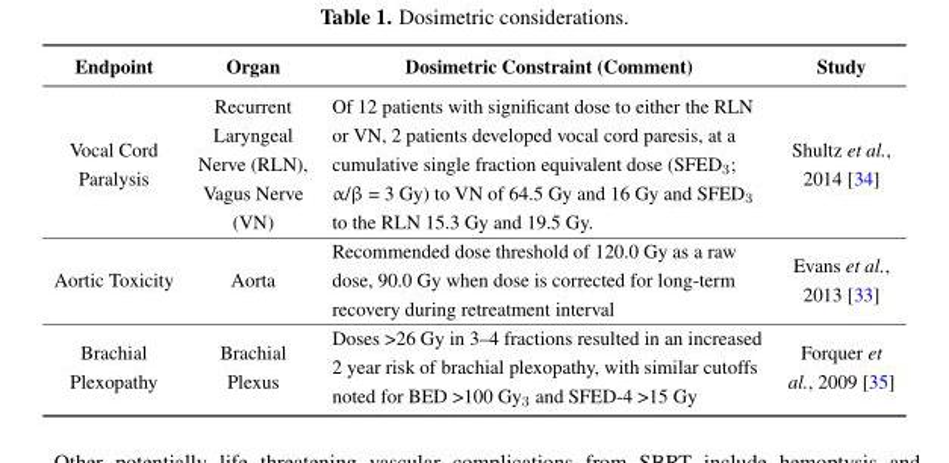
<table><thead><tr><td>Endpoint</td><td>Organ</td><td>Dosimetric Constraint (Comment)</td><td>Study</td></tr></thead><tbody><tr><td>Vocal Cord Paralysis</td><td>Recurrent Laryngeal Nerve (RLN), Vagus Nerve (VN)</td><td>Of 12 patients with significant dose to either the RLN or VN, 2 patients developed vocal cord paresis, at a cumulative single fraction equivalent dose (SFED<sub>3</sub>; α/β = 3 Gy) to VN of 64.5 Gy and 16 Gy and SFED<sub>3</sub> to the RLN 15.3 Gy and 19.5 Gy.</td><td>Shultz et al., 2014 [34]</td></tr><tr><td>Aortic Toxicity</td><td>Aorta</td><td>Recommended dose threshold of 120.0 Gy as a raw dose, 90.0 Gy when dose is corrected for long-term recovery during retreatment interval</td><td>Evans et al., 2013 [33]</td></tr><tr><td>Brachial Plexopathy</td><td>Brachial Plexus</td><td>Doses &gt;26 Gy in 3–4 fractions resulted in an increased 2 year risk of brachial plexopathy, with similar cutoffs noted for BED &gt;100 Gy<sub>3</sub> and SFED-4 &gt;15 Gy</td><td>Forquer et al., 2009 [35]</td></tr></tbody></table>